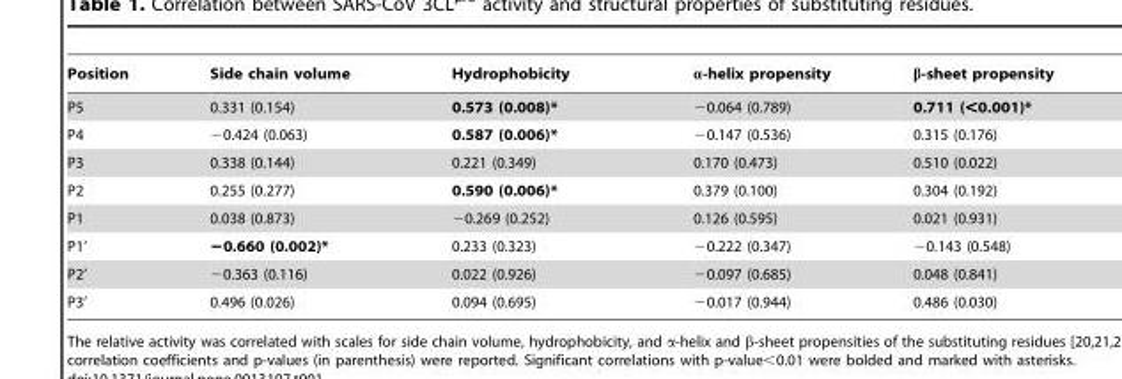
<table><thead><tr><td>Position</td><td>Side chain volume</td><td>Hydrophobicity</td><td>α-helix propensity</td><td>β-sheet propensity</td></tr></thead><tbody><tr><td>P5</td><td>0.331 (0.154)</td><td>0.573 (0.008)*</td><td>−0.064 (0.789)</td><td>0.711 (&lt;0.001)*</td></tr><tr><td>P4</td><td>−0.424 (0.063)</td><td>0.587 (0.006)*</td><td>−0.147 (0.536)</td><td>0.315 (0.176)</td></tr><tr><td>P3</td><td>0.338 (0.144)</td><td>0.221 (0.349)</td><td>0.170 (0.473)</td><td>0.510 (0.022)</td></tr><tr><td>P2</td><td>0.255 (0.277)</td><td>0.590 (0.006)*</td><td>0.379 (0.100)</td><td>0.304 (0.192)</td></tr><tr><td>P1</td><td>0.038 (0.873)</td><td>−0.269 (0.252)</td><td>0.126 (0.595)</td><td>0.021 (0.931)</td></tr><tr><td>P1’</td><td>−0.660 (0.002)*</td><td>0.233 (0.323)</td><td>−0.222 (0.347)</td><td>−0.143 (0.548)</td></tr><tr><td>P2’</td><td>−0.363 (0.116)</td><td>0.022 (0.926)</td><td>−0.097 (0.685)</td><td>0.048 (0.841)</td></tr><tr><td>P3’</td><td>0.496 (0.026)</td><td>0.094 (0.695)</td><td>−0.017 (0.944)</td><td>0.486 (0.030)</td></tr></tbody></table>